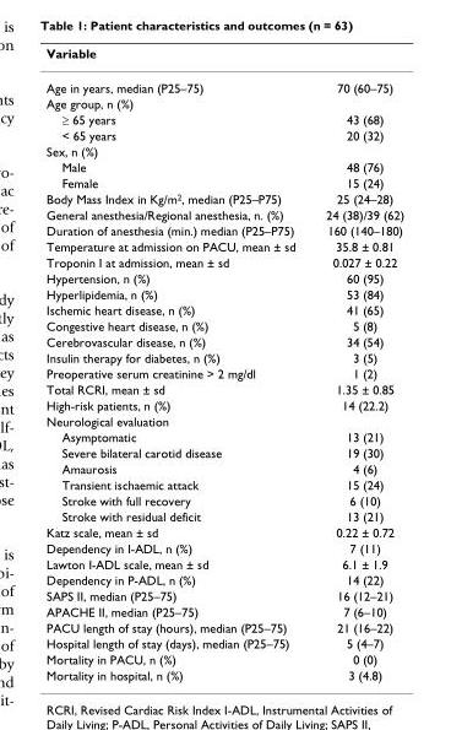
<table><thead><tr><td>Variable</td><td></td></tr></thead><tbody><tr><td>Age in years, median (P25–75)</td><td>70 (60–75)</td></tr><tr><td colspan="2">Age group, n (%)</td></tr><tr><td>≥ 65 years</td><td>43 (68)</td></tr><tr><td>&lt; 65 years</td><td>20 (32)</td></tr><tr><td colspan="2">Sex, n (%)</td></tr><tr><td>Male</td><td>48 (76)</td></tr><tr><td>Female</td><td>15 (24)</td></tr><tr><td>Body Mass Index in Kg/m<sup>2</sup>, median (P25–P75)</td><td>25 (24–28)</td></tr><tr><td>General anesthesia/Regional anesthesia, n. (%)</td><td>24 (38)/39 (62)</td></tr><tr><td>Duration of anesthesia (min.) median (P25–P75)</td><td>160 (140–180)</td></tr><tr><td>Temperature at admission on PACU, mean ± sd</td><td>35.8 ± 0.81</td></tr><tr><td>Troponin I at admission, mean ± sd</td><td>0.027 ± 0.22</td></tr><tr><td>Hypertension, n (%)</td><td>60 (95)</td></tr><tr><td>Hyperlipidemia, n (%)</td><td>53 (84)</td></tr><tr><td>Ischemic heart disease, n (%)</td><td>41 (65)</td></tr><tr><td>Congestive heart disease, n (%)</td><td>5 (8)</td></tr><tr><td>Cerebrovascular disease, n (%)</td><td>34 (54)</td></tr><tr><td>Insulin therapy for diabetes, n (%)</td><td>3 (5)</td></tr><tr><td>Preoperative serum creatinine &gt; 2 mg/dl</td><td>1 (2)</td></tr><tr><td>Total RCRI, mean ± sd</td><td>1.35 ± 0.85</td></tr><tr><td>High-risk patients, n (%)</td><td>14 (22.2)</td></tr><tr><td colspan="2">Neurological evaluation</td></tr><tr><td>Asymptomatic</td><td>13 (21)</td></tr><tr><td>Severe bilateral carotid disease</td><td>19 (30)</td></tr><tr><td>Amaurosis</td><td>4 (6)</td></tr><tr><td>Transient ischaemic attack</td><td>15 (24)</td></tr><tr><td>Stroke with full recovery</td><td>6 (10)</td></tr><tr><td>Stroke with residual deficit</td><td>13 (21)</td></tr><tr><td>Katz scale, mean ± sd</td><td>0.22 ± 0.72</td></tr><tr><td>Dependency in I-ADL, n (%)</td><td>7 (11)</td></tr><tr><td>Lawton I-ADL scale, mean ± sd</td><td>6.1 ± 1.9</td></tr><tr><td>Dependency in P-ADL, n (%)</td><td>14 (22)</td></tr><tr><td>SAPS II, median (P25–75)</td><td>16 (12–21)</td></tr><tr><td>APACHE II, median (P25–75)</td><td>7 (6–10)</td></tr><tr><td>PACU length of stay (hours), median (P25–75)</td><td>21 (16–22)</td></tr><tr><td>Hospital length of stay (days), median (P25–75)</td><td>5 (4–7)</td></tr><tr><td>Mortality in PACU, n (%)</td><td>0 (0)</td></tr><tr><td>Mortality in hospital, n (%)</td><td>3 (4.8)</td></tr></tbody></table>